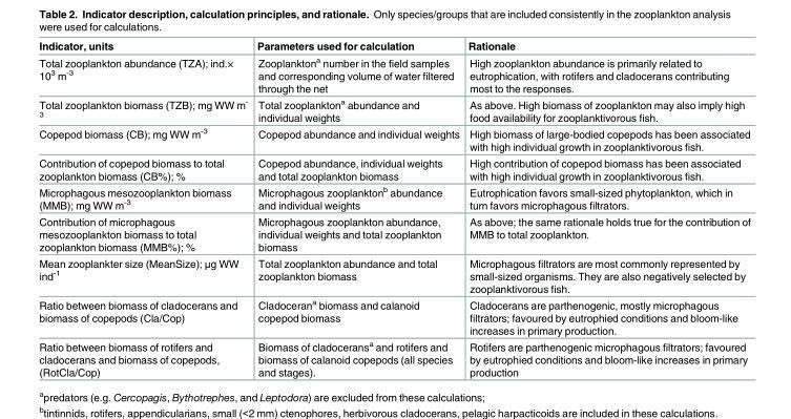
<table><thead><tr><td>Indicator, units</td><td>Parameters used for calculation</td><td>Rationale</td></tr></thead><tbody><tr><td>Total zooplankton abundance (TZA); ind.× 10<sup>3</sup> m<sup>-3</sup></td><td>Zooplankton<sup>a</sup> number in the field samples and corresponding volume of water filtered through the net</td><td>High zooplankton abundance is primarily related to eutrophication, with rotifers and cladocerans contributing most to the responses.</td></tr><tr><td>Total zooplankton biomass (TZB); mg WW m<sup>- 3</sup></td><td>Total zooplankton<sup>a</sup> abundance and individual weights</td><td>As above. High biomass of zooplankton may also imply high food availability for zooplanktivorous fish.</td></tr><tr><td>Copepod biomass (CB); mg WW m<sup>-3</sup></td><td>Copepod abundance and individual weights</td><td>High biomass of large-bodied copepods has been associated with high individual growth in zooplanktivorous fish.</td></tr><tr><td>Contribution of copepod biomass to total zooplankton biomass (CB%); %</td><td>Copepod abundance, individual weights and total zooplankton biomass</td><td>High contribution of copepod biomass has been associated with high individual growth in zooplanktivorous fish.</td></tr><tr><td>Microphagous mesozooplankton biomass (MMB); mg WW m<sup>-3</sup></td><td>Microphagous zooplankton<sup>b</sup> abundance and individual weights</td><td>Eutrophication favors small-sized phytoplankton, which in turn favors microphagous filtrators.</td></tr><tr><td>Contribution of microphagous mesozooplankton biomass to total zooplankton biomass (MMB%); %</td><td>Microphagous zooplankton abundance, individual weights and total zooplankton biomass</td><td>As above; the same rationale holds true for the contribution of MMB to total zooplankton.</td></tr><tr><td>Mean zooplankter size (MeanSize); μg WW ind<sup>-1</sup></td><td>Total zooplankton abundance and total zooplankton biomass</td><td>Microphagous filtrators are most commonly represented by small-sized organisms. They are also negatively selected by zooplanktivorous fish.</td></tr><tr><td>Ratio between biomass of cladocerans and biomass of copepods (Cla/Cop)</td><td>Cladoceran<sup>a</sup> biomass and calanoid copepod biomass</td><td>Cladocerans are parthenogenic, mostly microphagous filtrators; favoured by eutrophied conditions and bloom-like increases in primary production.</td></tr><tr><td>Ratio between biomass of rotifers and cladocerans and biomass of copepods, (RotCla/Cop)</td><td>Biomass of cladocerans<sup>a</sup> and rotifers and biomass of calanoid copepods (all species and stages).</td><td>Rotifers are parthenogenic microphagous filtrators; favoured by eutrophied conditions and bloom-like increases in primary production</td></tr></tbody></table>